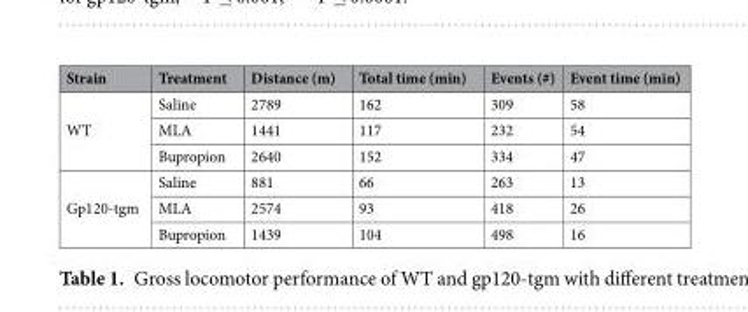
<table><thead><tr><td>Strain</td><td>Treatment</td><td>Distance (m)</td><td>Total time (min)</td><td>Events (#)</td><td>Event time (min)</td></tr></thead><tbody><tr><td rowspan="3">WT</td><td>Saline</td><td>2789</td><td>162</td><td>309</td><td>58</td></tr><tr><td>MLA</td><td>1441</td><td>117</td><td>232</td><td>54</td></tr><tr><td>Bupropion</td><td>2640</td><td>152</td><td>334</td><td>47</td></tr><tr><td rowspan="3">Gp120-tgm</td><td>Saline</td><td>881</td><td>66</td><td>263</td><td>13</td></tr><tr><td>MLA</td><td>2574</td><td>93</td><td>418</td><td>26</td></tr><tr><td>Bupropion</td><td>1439</td><td>104</td><td>498</td><td>16</td></tr></tbody></table>